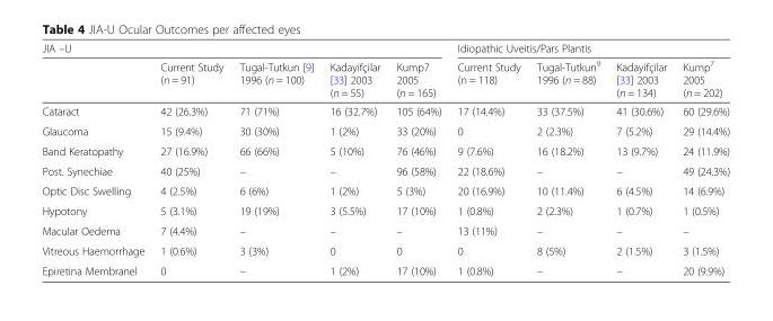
<table><thead><tr><td colspan="5">JIA –U</td><td colspan="4">Idiopathic Uveitis/Pars Plantis</td></tr><tr><td></td><td>Current Study (n = 91)</td><td>Tugal-Tutkun [9] 1996 (n = 100)</td><td>Kadayifçilar [33] 2003 (n = 55)</td><td>Kump7 2005 (n = 165)</td><td>Current Study (n = 118)</td><td>Tugal-Tutkun<sup>9</sup> 1996 (n = 88)</td><td>Kadayifçilar [33] 2003 (n = 134)</td><td>Kump<sup>7</sup> 2005 (n = 202)</td></tr></thead><tbody><tr><td>Cataract</td><td>42 (26.3%)</td><td>71 (71%)</td><td>16 (32.7%)</td><td>105 (64%)</td><td>17 (14.4%)</td><td>33 (37.5%)</td><td>41 (30.6%)</td><td>60 (29.6%)</td></tr><tr><td>Glaucoma</td><td>15 (9.4%)</td><td>30 (30%)</td><td>1 (2%)</td><td>33 (20%)</td><td>0</td><td>2 (2.3%)</td><td>7 (5.2%)</td><td>29 (14.4%)</td></tr><tr><td>Band Keratopathy</td><td>27 (16.9%)</td><td>66 (66%)</td><td>5 (10%)</td><td>76 (46%)</td><td>9 (7.6%)</td><td>16 (18.2%)</td><td>13 (9.7%)</td><td>24 (11.9%)</td></tr><tr><td>Post. Synechiae</td><td>40 (25%)</td><td>–</td><td>–</td><td>96 (58%)</td><td>22 (18.6%)</td><td>–</td><td>–</td><td>49 (24.3%)</td></tr><tr><td>Optic Disc Swelling</td><td>4 (2.5%)</td><td>6 (6%)</td><td>1 (2%)</td><td>5 (3%)</td><td>20 (16.9%)</td><td>10 (11.4%)</td><td>6 (4.5%)</td><td>14 (6.9%)</td></tr><tr><td>Hypotony</td><td>5 (3.1%)</td><td>19 (19%)</td><td>3 (5.5%)</td><td>17 (10%)</td><td>1 (0.8%)</td><td>2 (2.3%)</td><td>1 (0.7%)</td><td>1 (0.5%)</td></tr><tr><td>Macular Oedema</td><td>7 (4.4%)</td><td>–</td><td>–</td><td>–</td><td>13 (11%)</td><td>–</td><td>–</td><td>–</td></tr><tr><td>Vitreous Haemorrhage</td><td>1 (0.6%)</td><td>3 (3%)</td><td>0</td><td>0</td><td>0</td><td>8 (5%)</td><td>2 (1.5%)</td><td>3 (1.5%)</td></tr><tr><td>Epiretina Membranel</td><td>0</td><td>–</td><td>1 (2%)</td><td>17 (10%)</td><td>1 (0.8%)</td><td>–</td><td>–</td><td>20 (9.9%)</td></tr></tbody></table>